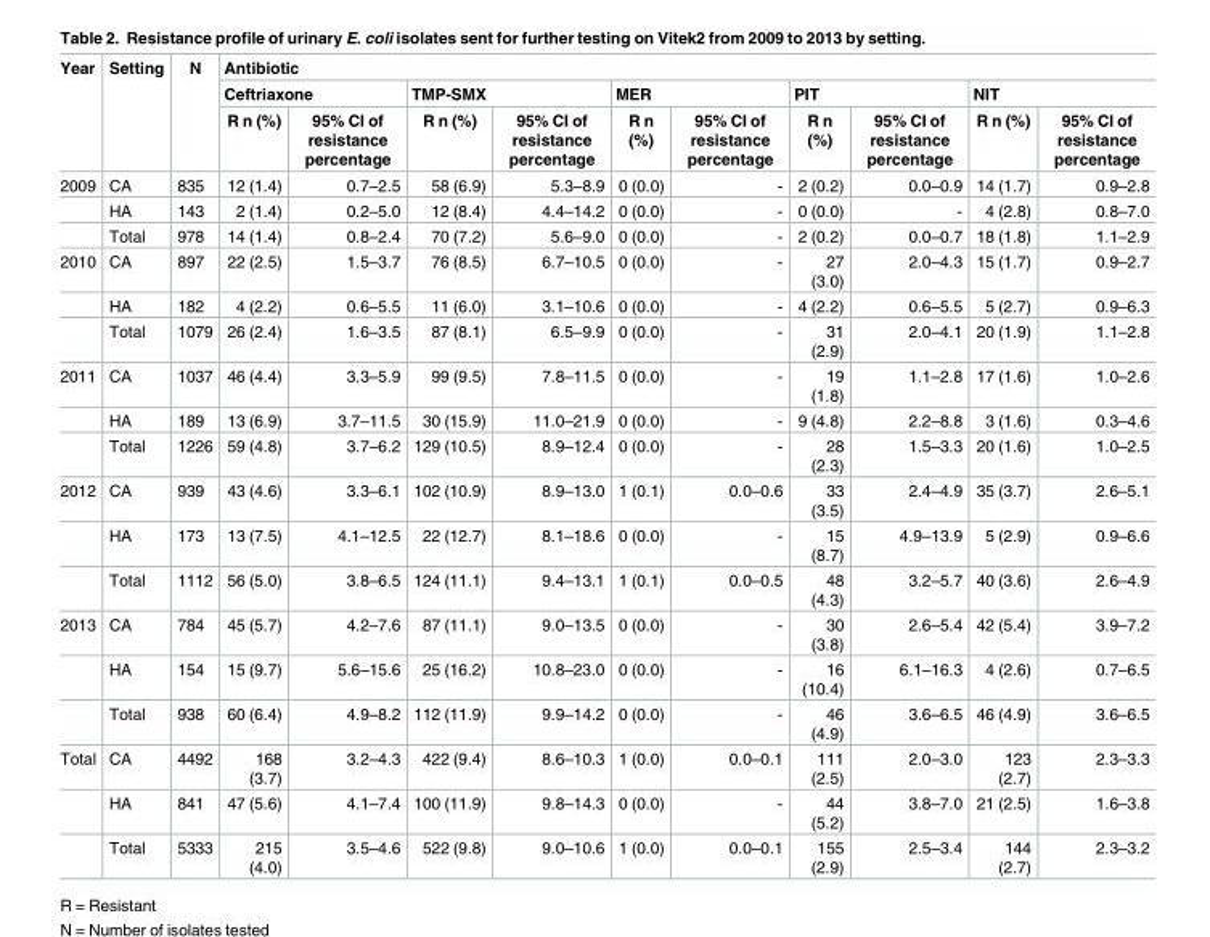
<table><thead><tr><td rowspan="3">Year</td><td rowspan="3">Setting</td><td rowspan="3">N</td><td colspan="10">Antibiotic</td></tr><tr><td colspan="2">Ceftriaxone</td><td colspan="2">TMP-SMX</td><td colspan="2">MER</td><td colspan="2">PIT</td><td colspan="2">NIT</td></tr><tr><td>R n (%)</td><td>95% CI of resistance percentage</td><td>R n (%)</td><td>95% CI of resistance percentage</td><td>R n (%)</td><td>95% CI of resistance percentage</td><td>R n (%)</td><td>95% CI of resistance percentage</td><td>R n (%)</td><td>95% CI of resistance percentage</td></tr></thead><tbody><tr><td rowspan="3">2009</td><td>CA</td><td>835</td><td>12 (1.4)</td><td>0.7–2.5</td><td>58 (6.9)</td><td>5.3–8.9</td><td>0 (0.0)</td><td>-</td><td>2 (0.2)</td><td>0.0–0.9</td><td>14 (1.7)</td><td>0.9–2.8</td></tr><tr><td>HA</td><td>143</td><td>2 (1.4)</td><td>0.2–5.0</td><td>12 (8.4)</td><td>4.4–14.2</td><td>0 (0.0)</td><td>-</td><td>0 (0.0)</td><td>-</td><td>4 (2.8)</td><td>0.8–7.0</td></tr><tr><td>Total</td><td>978</td><td>14 (1.4)</td><td>0.8–2.4</td><td>70 (7.2)</td><td>5.6–9.0</td><td>0 (0.0)</td><td>-</td><td>2 (0.2)</td><td>0.0–0.7</td><td>18 (1.8)</td><td>1.1–2.9</td></tr><tr><td rowspan="3">2010</td><td>CA</td><td>897</td><td>22 (2.5)</td><td>1.5–3.7</td><td>76 (8.5)</td><td>6.7–10.5</td><td>0 (0.0)</td><td>-</td><td>27 (3.0)</td><td>2.0–4.3</td><td>15 (1.7)</td><td>0.9–2.7</td></tr><tr><td>HA</td><td>182</td><td>4 (2.2)</td><td>0.6–5.5</td><td>11 (6.0)</td><td>3.1–10.6</td><td>0 (0.0)</td><td>-</td><td>4 (2.2)</td><td>0.6–5.5</td><td>5 (2.7)</td><td>0.9–6.3</td></tr><tr><td>Total</td><td>1079</td><td>26 (2.4)</td><td>1.6–3.5</td><td>87 (8.1)</td><td>6.5–9.9</td><td>0 (0.0)</td><td>-</td><td>31 (2.9)</td><td>2.0–4.1</td><td>20 (1.9)</td><td>1.1–2.8</td></tr><tr><td rowspan="3">2011</td><td>CA</td><td>1037</td><td>46 (4.4)</td><td>3.3–5.9</td><td>99 (9.5)</td><td>7.8–11.5</td><td>0 (0.0)</td><td>-</td><td>19 (1.8)</td><td>1.1–2.8</td><td>17 (1.6)</td><td>1.0–2.6</td></tr><tr><td>HA</td><td>189</td><td>13 (6.9)</td><td>3.7–11.5</td><td>30 (15.9)</td><td>11.0–21.9</td><td>0 (0.0)</td><td>-</td><td>9 (4.8)</td><td>2.2–8.8</td><td>3 (1.6)</td><td>0.3–4.6</td></tr><tr><td>Total</td><td>1226</td><td>59 (4.8)</td><td>3.7–6.2</td><td>129 (10.5)</td><td>8.9–12.4</td><td>0 (0.0)</td><td>-</td><td>28 (2.3)</td><td>1.5–3.3</td><td>20 (1.6)</td><td>1.0–2.5</td></tr><tr><td rowspan="3">2012</td><td>CA</td><td>939</td><td>43 (4.6)</td><td>3.3–6.1</td><td>102 (10.9)</td><td>8.9–13.0</td><td>1 (0.1)</td><td>0.0–0.6</td><td>33 (3.5)</td><td>2.4–4.9</td><td>35 (3.7)</td><td>2.6–5.1</td></tr><tr><td>HA</td><td>173</td><td>13 (7.5)</td><td>4.1–12.5</td><td>22 (12.7)</td><td>8.1–18.6</td><td>0 (0.0)</td><td>-</td><td>15 (8.7)</td><td>4.9–13.9</td><td>5 (2.9)</td><td>0.9–6.6</td></tr><tr><td>Total</td><td>1112</td><td>56 (5.0)</td><td>3.8–6.5</td><td>124 (11.1)</td><td>9.4–13.1</td><td>1 (0.1)</td><td>0.0–0.5</td><td>48 (4.3)</td><td>3.2–5.7</td><td>40 (3.6)</td><td>2.6–4.9</td></tr><tr><td rowspan="3">2013</td><td>CA</td><td>784</td><td>45 (5.7)</td><td>4.2–7.6</td><td>87 (11.1)</td><td>9.0–13.5</td><td>0 (0.0)</td><td>-</td><td>30 (3.8)</td><td>2.6–5.4</td><td>42 (5.4)</td><td>3.9–7.2</td></tr><tr><td>HA</td><td>154</td><td>15 (9.7)</td><td>5.6–15.6</td><td>25 (16.2)</td><td>10.8–23.0</td><td>0 (0.0)</td><td>-</td><td>16 (10.4)</td><td>6.1–16.3</td><td>4 (2.6)</td><td>0.7–6.5</td></tr><tr><td>Total</td><td>938</td><td>60 (6.4)</td><td>4.9–8.2</td><td>112 (11.9)</td><td>9.9–14.2</td><td>0 (0.0)</td><td>-</td><td>46 (4.9)</td><td>3.6–6.5</td><td>46 (4.9)</td><td>3.6–6.5</td></tr><tr><td rowspan="3">Total</td><td>CA</td><td>4492</td><td>168 (3.7)</td><td>3.2–4.3</td><td>422 (9.4)</td><td>8.6–10.3</td><td>1 (0.0)</td><td>0.0–0.1</td><td>111 (2.5)</td><td>2.0–3.0</td><td>123 (2.7)</td><td>2.3–3.3</td></tr><tr><td>HA</td><td>841</td><td>47 (5.6)</td><td>4.1–7.4</td><td>100 (11.9)</td><td>9.8–14.3</td><td>0 (0.0)</td><td>-</td><td>44 (5.2)</td><td>3.8–7.0</td><td>21 (2.5)</td><td>1.6–3.8</td></tr><tr><td>Total</td><td>5333</td><td>215 (4.0)</td><td>3.5–4.6</td><td>522 (9.8)</td><td>9.0–10.6</td><td>1 (0.0)</td><td>0.0–0.1</td><td>155 (2.9)</td><td>2.5–3.4</td><td>144 (2.7)</td><td>2.3–3.2</td></tr></tbody></table>